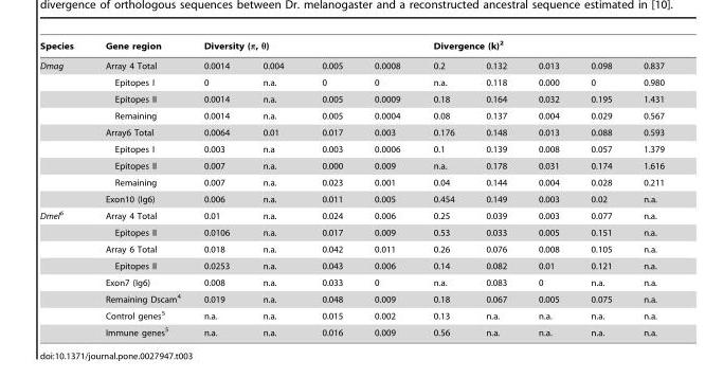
<table><thead><tr><td rowspan="2">Species Dmag</td><td rowspan="2">Gene region Array 4 Total</td><td colspan="4">Diversity (π, θ)</td><td colspan="5">Divergence (k)<sup>2</sup></td></tr><tr><td>0.0014</td><td>0.004</td><td>0.005</td><td>0.0008</td><td>0.2</td><td>0.132</td><td>0.013</td><td>0.098</td><td>0.837</td></tr></thead><tbody><tr><td></td><td>Epitopes I</td><td>0</td><td>n.a.</td><td>0</td><td>0</td><td>n.a.</td><td>0.118</td><td>0.000</td><td>0</td><td>0.980</td></tr><tr><td></td><td>Epitopes II</td><td>0.0014</td><td>n.a.</td><td>0.005</td><td>0.0009</td><td>0.18</td><td>0.164</td><td>0.032</td><td>0.195</td><td>1.431</td></tr><tr><td></td><td>Remaining</td><td>0.0014</td><td>n.a.</td><td>0.005</td><td>0.0004</td><td>0.08</td><td>0.137</td><td>0.004</td><td>0.029</td><td>0.567</td></tr><tr><td></td><td>Array6 Total</td><td>0.0064</td><td>0.01</td><td>0.017</td><td>0.003</td><td>0.176</td><td>0.148</td><td>0.013</td><td>0.088</td><td>0.593</td></tr><tr><td></td><td>Epitopes I</td><td>0.003</td><td>n.a</td><td>0.003</td><td>0.0006</td><td>0.1</td><td>0.139</td><td>0.008</td><td>0.057</td><td>1.379</td></tr><tr><td></td><td>Epitopes II</td><td>0.007</td><td>n.a.</td><td>0.000</td><td>0.009</td><td>n.a.</td><td>0.178</td><td>0.031</td><td>0.174</td><td>1.616</td></tr><tr><td></td><td>Remaining</td><td>0.007</td><td>n.a.</td><td>0.023</td><td>0.001</td><td>0.04</td><td>0.144</td><td>0.004</td><td>0.028</td><td>0.211</td></tr><tr><td></td><td>Exon10 (Ig6)</td><td>0.006</td><td>n.a.</td><td>0.011</td><td>0.005</td><td>0.454</td><td>0.149</td><td>0.003</td><td>0.02</td><td>n.a.</td></tr><tr><td rowspan="8">Dmel<sup>6</sup></td><td>Array 4 Total</td><td>0.01</td><td>n.a.</td><td>0.024</td><td>0.006</td><td>0.25</td><td>0.039</td><td>0.003</td><td>0.077</td><td>n.a.</td></tr><tr><td>Epitopes II</td><td>0.0106</td><td>n.a.</td><td>0.017</td><td>0.009</td><td>0.53</td><td>0.033</td><td>0.005</td><td>0.151</td><td>n.a.</td></tr><tr><td>Array 6 Total</td><td>0.018</td><td>n.a.</td><td>0.042</td><td>0.011</td><td>0.26</td><td>0.076</td><td>0.008</td><td>0.105</td><td>n.a.</td></tr><tr><td>Epitopes II</td><td>0.0253</td><td>n.a.</td><td>0.043</td><td>0.006</td><td>0.14</td><td>0.082</td><td>0.01</td><td>0.121</td><td>n.a.</td></tr><tr><td>Exon7 (Ig6)</td><td>0.008</td><td>n.a.</td><td>0.033</td><td>0</td><td>n.a.</td><td>0.083</td><td>0</td><td>n.a.</td><td>n.a.</td></tr><tr><td>Remaining Dscam<sup>4</sup></td><td>0.019</td><td>n.a.</td><td>0.048</td><td>0.009</td><td>0.18</td><td>0.067</td><td>0.005</td><td>0.075</td><td>n.a.</td></tr><tr><td>Control genes<sup>5</sup></td><td>n.a.</td><td>n.a.</td><td>0.015</td><td>0.002</td><td>0.13</td><td>n.a.</td><td>n.a.</td><td>n.a.</td><td>n.a.</td></tr><tr><td>Immune genes<sup>5</sup></td><td>n.a.</td><td>n.a.</td><td>0.016</td><td>0.009</td><td>0.56</td><td>n.a.</td><td>n.a.</td><td>n.a.</td><td>n.a.</td></tr></tbody></table>